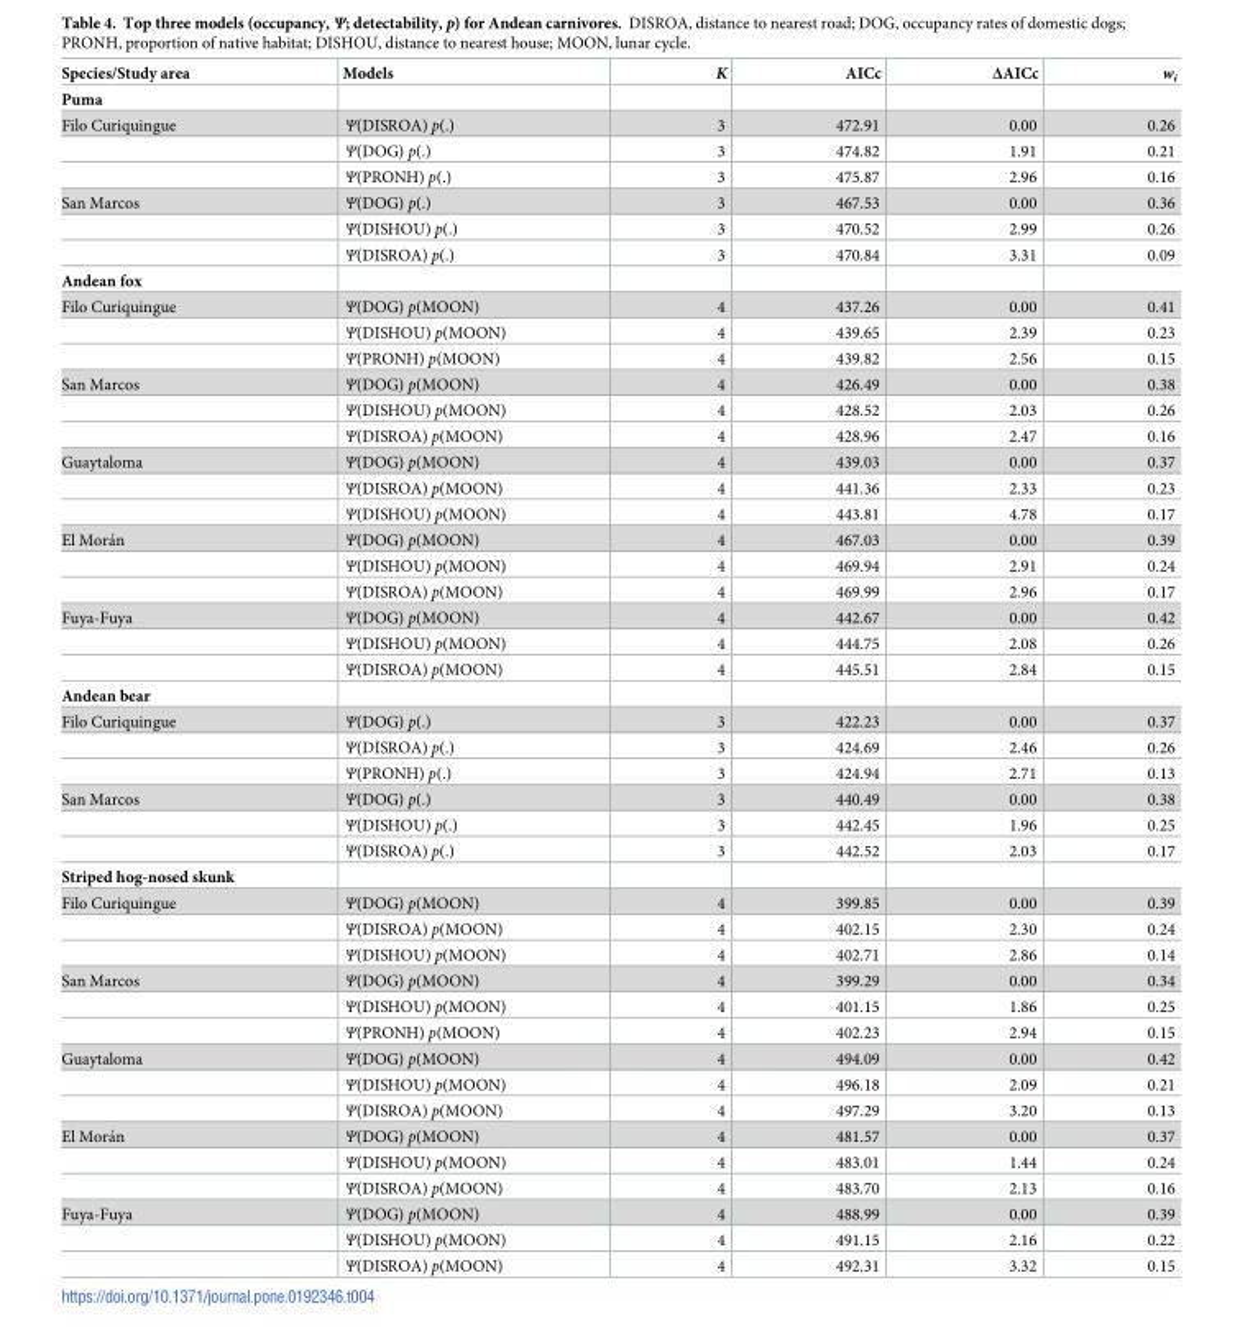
<table><thead><tr><td>Species/Study area</td><td>Models</td><td>K</td><td>AICc</td><td>ΔAICc</td><td>w<sub>i</sub></td></tr></thead><tbody><tr><td colspan="6">Puma</td></tr><tr><td rowspan="3">Filo Curiquingue</td><td>Ψ(DISROA) p(.)</td><td>3</td><td>472.91</td><td>0.00</td><td>0.26</td></tr><tr><td>Ψ(DOG) p(.)</td><td>3</td><td>474.82</td><td>1.91</td><td>0.21</td></tr><tr><td>Ψ(PRONH) p(.)</td><td>3</td><td>475.87</td><td>2.96</td><td>0.16</td></tr><tr><td rowspan="3">San Marcos</td><td>Ψ(DOG) p(.)</td><td>3</td><td>467.53</td><td>0.00</td><td>0.36</td></tr><tr><td>Ψ(DISHOU) p(.)</td><td>3</td><td>470.52</td><td>2.99</td><td>0.26</td></tr><tr><td>Ψ(DISROA) p(.)</td><td>3</td><td>470.84</td><td>3.31</td><td>0.09</td></tr><tr><td colspan="6">Andean fox</td></tr><tr><td rowspan="3">Filo Curiquingue</td><td>Ψ(DOG) p(MOON)</td><td>4</td><td>437.26</td><td>0.00</td><td>0.41</td></tr><tr><td>Ψ(DISHOU) p(MOON)</td><td>4</td><td>439.65</td><td>2.39</td><td>0.23</td></tr><tr><td>Ψ(PRONH) p(MOON)</td><td>4</td><td>439.82</td><td>2.56</td><td>0.15</td></tr><tr><td rowspan="3">San Marcos</td><td>Ψ(DOG) p(MOON)</td><td>4</td><td>426.49</td><td>0.00</td><td>0.38</td></tr><tr><td>Ψ(DISHOU) p(MOON)</td><td>4</td><td>428.52</td><td>2.03</td><td>0.26</td></tr><tr><td>Ψ(DISROA) p(MOON)</td><td>4</td><td>428.96</td><td>2.47</td><td>0.16</td></tr><tr><td rowspan="3">Guaytaloma</td><td>Ψ(DOG) p(MOON)</td><td>4</td><td>439.03</td><td>0.00</td><td>0.37</td></tr><tr><td>Ψ(DISROA) p(MOON)</td><td>4</td><td>441.36</td><td>2.33</td><td>0.23</td></tr><tr><td>Ψ(DISHOU) p(MOON)</td><td>4</td><td>443.81</td><td>4.78</td><td>0.17</td></tr><tr><td rowspan="3">El Mora´n</td><td>Ψ(DOG) p(MOON)</td><td>4</td><td>467.03</td><td>0.00</td><td>0.39</td></tr><tr><td>Ψ(DISHOU) p(MOON)</td><td>4</td><td>469.94</td><td>2.91</td><td>0.24</td></tr><tr><td>Ψ(DISROA) p(MOON)</td><td>4</td><td>469.99</td><td>2.96</td><td>0.17</td></tr><tr><td rowspan="3">Fuya-Fuya</td><td>Ψ(DOG) p(MOON)</td><td>4</td><td>442.67</td><td>0.00</td><td>0.42</td></tr><tr><td>Ψ(DISHOU) p(MOON)</td><td>4</td><td>444.75</td><td>2.08</td><td>0.26</td></tr><tr><td>Ψ(DISROA) p(MOON)</td><td>4</td><td>445.51</td><td>2.84</td><td>0.15</td></tr><tr><td colspan="6">Andean bear</td></tr><tr><td rowspan="3">Filo Curiquingue</td><td>Ψ(DOG) p(.)</td><td>3</td><td>422.23</td><td>0.00</td><td>0.37</td></tr><tr><td>Ψ(DISROA) p(.)</td><td>3</td><td>424.69</td><td>2.46</td><td>0.26</td></tr><tr><td>Ψ(PRONH) p(.)</td><td>3</td><td>424.94</td><td>2.71</td><td>0.13</td></tr><tr><td rowspan="3">San Marcos</td><td>Ψ(DOG) p(.)</td><td>3</td><td>440.49</td><td>0.00</td><td>0.38</td></tr><tr><td>Ψ(DISHOU) p(.)</td><td>3</td><td>442.45</td><td>1.96</td><td>0.25</td></tr><tr><td>Ψ(DISROA) p(.)</td><td>3</td><td>442.52</td><td>2.03</td><td>0.17</td></tr><tr><td colspan="6">Striped hog-nosed skunk</td></tr><tr><td rowspan="3">Filo Curiquingue</td><td>Ψ(DOG) p(MOON)</td><td>4</td><td>399.85</td><td>0.00</td><td>0.39</td></tr><tr><td>Ψ(DISROA) p(MOON)</td><td>4</td><td>402.15</td><td>2.30</td><td>0.24</td></tr><tr><td>Ψ(DISHOU) p(MOON)</td><td>4</td><td>402.71</td><td>2.86</td><td>0.14</td></tr><tr><td rowspan="3">San Marcos</td><td>Ψ(DOG) p(MOON)</td><td>4</td><td>399.29</td><td>0.00</td><td>0.34</td></tr><tr><td>Ψ(DISHOU) p(MOON)</td><td>4</td><td>401.15</td><td>1.86</td><td>0.25</td></tr><tr><td>Ψ(PRONH) p(MOON)</td><td>4</td><td>402.23</td><td>2.94</td><td>0.15</td></tr><tr><td rowspan="3">Guaytaloma</td><td>Ψ(DOG) p(MOON)</td><td>4</td><td>494.09</td><td>0.00</td><td>0.42</td></tr><tr><td>Ψ(DISHOU) p(MOON)</td><td>4</td><td>496.18</td><td>2.09</td><td>0.21</td></tr><tr><td>Ψ(DISROA) p(MOON)</td><td>4</td><td>497.29</td><td>3.20</td><td>0.13</td></tr><tr><td rowspan="3">El Mora´n</td><td>Ψ(DOG) p(MOON)</td><td>4</td><td>481.57</td><td>0.00</td><td>0.37</td></tr><tr><td>Ψ(DISHOU) p(MOON)</td><td>4</td><td>483.01</td><td>1.44</td><td>0.24</td></tr><tr><td>Ψ(DISROA) p(MOON)</td><td>4</td><td>483.70</td><td>2.13</td><td>0.16</td></tr><tr><td rowspan="3">Fuya-Fuya</td><td>Ψ(DOG) p(MOON)</td><td>4</td><td>488.99</td><td>0.00</td><td>0.39</td></tr><tr><td>Ψ(DISHOU) p(MOON)</td><td>4</td><td>491.15</td><td>2.16</td><td>0.22</td></tr><tr><td>Ψ(DISROA) p(MOON)</td><td>4</td><td>492.31</td><td>3.32</td><td>0.15</td></tr></tbody></table>